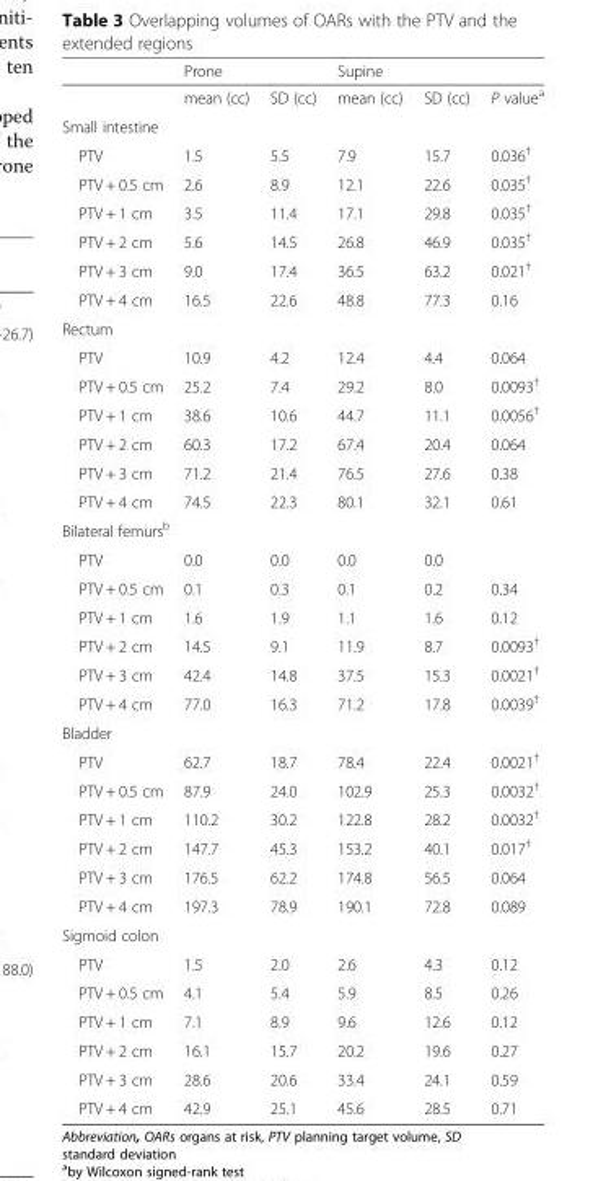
<table><thead><tr><td></td><td>Prone</td><td></td><td>Supine</td><td></td><td></td></tr></thead><tbody><tr><td></td><td>mean (cc)</td><td>SD (cc)</td><td>mean (cc)</td><td>SD (cc)</td><td>P value<sup>a</sup></td></tr><tr><td colspan="6">Small intestine</td></tr><tr><td>PTV</td><td>1.5</td><td>5.5</td><td>7.9</td><td>15.7</td><td>0.036<sup>†</sup></td></tr><tr><td>PTV + 0.5 cm</td><td>2.6</td><td>8.9</td><td>12.1</td><td>22.6</td><td>0.035<sup>†</sup></td></tr><tr><td>PTV + 1 cm</td><td>3.5</td><td>11.4</td><td>17.1</td><td>29.8</td><td>0.035<sup>†</sup></td></tr><tr><td>PTV + 2 cm</td><td>5.6</td><td>14.5</td><td>26.8</td><td>46.9</td><td>0.035<sup>†</sup></td></tr><tr><td>PTV + 3 cm</td><td>9.0</td><td>17.4</td><td>36.5</td><td>63.2</td><td>0.021<sup>†</sup></td></tr><tr><td>PTV + 4 cm</td><td>16.5</td><td>22.6</td><td>48.8</td><td>77.3</td><td>0.16</td></tr><tr><td colspan="6">Rectum</td></tr><tr><td>PTV</td><td>10.9</td><td>4.2</td><td>12.4</td><td>4.4</td><td>0.064</td></tr><tr><td>PTV + 0.5 cm</td><td>25.2</td><td>7.4</td><td>29.2</td><td>8.0</td><td>0.0093<sup>†</sup></td></tr><tr><td>PTV + 1 cm</td><td>38.6</td><td>10.6</td><td>44.7</td><td>11.1</td><td>0.0056<sup>†</sup></td></tr><tr><td>PTV + 2 cm</td><td>60.3</td><td>17.2</td><td>67.4</td><td>20.4</td><td>0.064</td></tr><tr><td>PTV + 3 cm</td><td>71.2</td><td>21.4</td><td>76.5</td><td>27.6</td><td>0.38</td></tr><tr><td>PTV + 4 cm</td><td>74.5</td><td>22.3</td><td>80.1</td><td>32.1</td><td>0.61</td></tr><tr><td colspan="6">Bilateral femurs<sup>b</sup></td></tr><tr><td>PTV</td><td>0.0</td><td>0.0</td><td>0.0</td><td>0.0</td><td></td></tr><tr><td>PTV + 0.5 cm</td><td>0.1</td><td>0.3</td><td>0.1</td><td>0.2</td><td>0.34</td></tr><tr><td>PTV + 1 cm</td><td>1.6</td><td>1.9</td><td>1.1</td><td>1.6</td><td>0.12</td></tr><tr><td>PTV + 2 cm</td><td>14.5</td><td>9.1</td><td>11.9</td><td>8.7</td><td>0.0093<sup>†</sup></td></tr><tr><td>PTV + 3 cm</td><td>42.4</td><td>14.8</td><td>37.5</td><td>15.3</td><td>0.0021<sup>†</sup></td></tr><tr><td>PTV + 4 cm</td><td>77.0</td><td>16.3</td><td>71.2</td><td>17.8</td><td>0.0039<sup>†</sup></td></tr><tr><td colspan="6">Bladder</td></tr><tr><td>PTV</td><td>62.7</td><td>18.7</td><td>78.4</td><td>22.4</td><td>0.0021<sup>†</sup></td></tr><tr><td>PTV + 0.5 cm</td><td>87.9</td><td>24.0</td><td>102.9</td><td>25.3</td><td>0.0032<sup>†</sup></td></tr><tr><td>PTV + 1 cm</td><td>110.2</td><td>30.2</td><td>122.8</td><td>28.2</td><td>0.0032<sup>†</sup></td></tr><tr><td>PTV + 2 cm</td><td>147.7</td><td>45.3</td><td>153.2</td><td>40.1</td><td>0.017<sup>†</sup></td></tr><tr><td>PTV + 3 cm</td><td>176.5</td><td>62.2</td><td>174.8</td><td>56.5</td><td>0.064</td></tr><tr><td>PTV + 4 cm</td><td>197.3</td><td>78.9</td><td>190.1</td><td>72.8</td><td>0.089</td></tr><tr><td colspan="6">Sigmoid colon</td></tr><tr><td>PTV</td><td>1.5</td><td>2.0</td><td>2.6</td><td>4.3</td><td>0.12</td></tr><tr><td>PTV + 0.5 cm</td><td>4.1</td><td>5.4</td><td>5.9</td><td>8.5</td><td>0.26</td></tr><tr><td>PTV + 1 cm</td><td>7.1</td><td>8.9</td><td>9.6</td><td>12.6</td><td>0.12</td></tr><tr><td>PTV + 2 cm</td><td>16.1</td><td>15.7</td><td>20.2</td><td>19.6</td><td>0.27</td></tr><tr><td>PTV + 3 cm</td><td>28.6</td><td>20.6</td><td>33.4</td><td>24.1</td><td>0.59</td></tr><tr><td>PTV + 4 cm</td><td>42.9</td><td>25.1</td><td>45.6</td><td>28.5</td><td>0.71</td></tr></tbody></table>